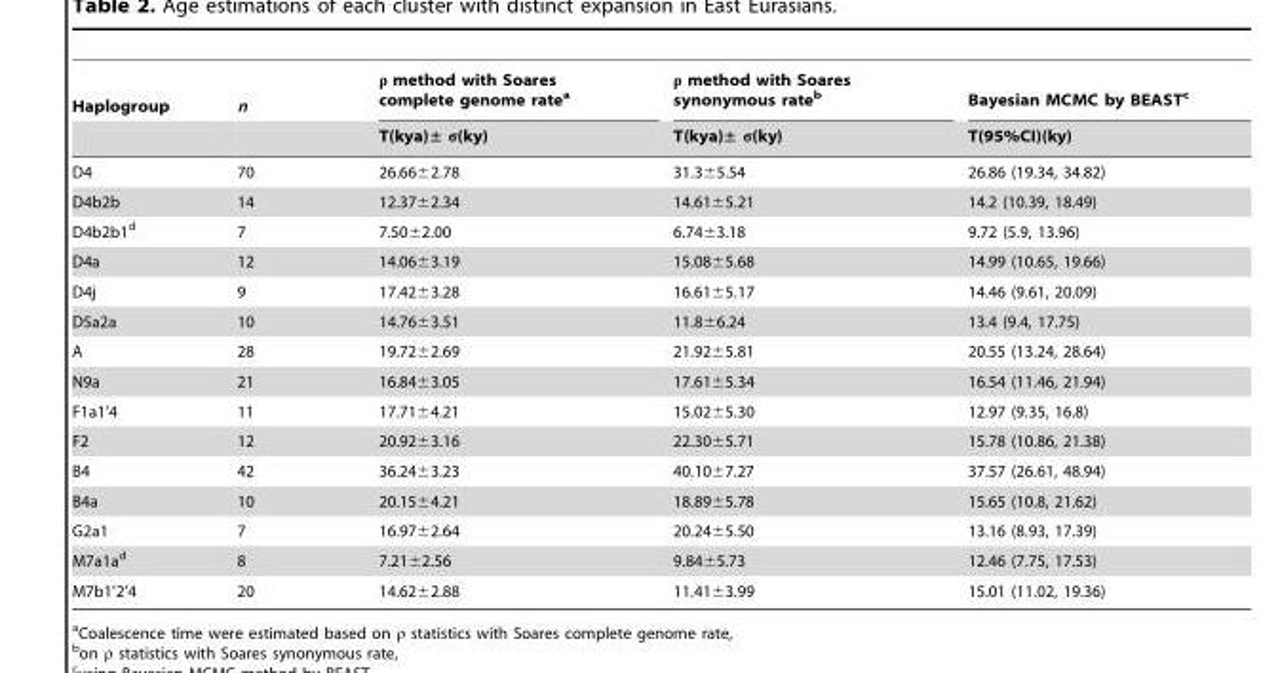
<table><thead><tr><td rowspan="2">Haplogroup</td><td rowspan="2">n</td><td rowspan="2">ρ method with Soares complete genome rate<sup>a</sup> T(kya)± σ(ky)</td><td rowspan="2">ρ method with Soares synonymous rate<sup>b</sup> T(kya)± σ(ky)</td><td rowspan="2">Bayesian MCMC by BEAST<sup>c</sup> T(95%CI)(ky)</td></tr><tr></tr></thead><tbody><tr><td>D4</td><td>70</td><td>26.66±2.78</td><td>31.3±5.54</td><td>26.86 (19.34, 34.82)</td></tr><tr><td>D4b2b</td><td>14</td><td>12.37±2.34</td><td>14.61±5.21</td><td>14.2 (10.39, 18.49)</td></tr><tr><td>D4b2b1<sup>d</sup></td><td>7</td><td>7.50±2.00</td><td>6.74±3.18</td><td>9.72 (5.9, 13.96)</td></tr><tr><td>D4a</td><td>12</td><td>14.06±3.19</td><td>15.08±5.68</td><td>14.99 (10.65, 19.66)</td></tr><tr><td>D4j</td><td>9</td><td>17.42±3.28</td><td>16.61±5.17</td><td>14.46 (9.61, 20.09)</td></tr><tr><td>D5a2a</td><td>10</td><td>14.76±3.51</td><td>11.8±6.24</td><td>13.4 (9.4, 17.75)</td></tr><tr><td>A</td><td>28</td><td>19.72±2.69</td><td>21.92±5.81</td><td>20.55 (13.24, 28.64)</td></tr><tr><td>N9a</td><td>21</td><td>16.84±3.05</td><td>17.61±5.34</td><td>16.54 (11.46, 21.94)</td></tr><tr><td>F1a1’4</td><td>11</td><td>17.71±4.21</td><td>15.02±5.30</td><td>12.97 (9.35, 16.8)</td></tr><tr><td>F2</td><td>12</td><td>20.92±3.16</td><td>22.30±5.71</td><td>15.78 (10.86, 21.38)</td></tr><tr><td>B4</td><td>42</td><td>36.24±3.23</td><td>40.10±7.27</td><td>37.57 (26.61, 48.94)</td></tr><tr><td>B4a</td><td>10</td><td>20.15±4.21</td><td>18.89±5.78</td><td>15.65 (10.8, 21.62)</td></tr><tr><td>G2a1</td><td>7</td><td>16.97±2.64</td><td>20.24±5.50</td><td>13.16 (8.93, 17.39)</td></tr><tr><td>M7a1a<sup>d</sup></td><td>8</td><td>7.21±2.56</td><td>9.84±5.73</td><td>12.46 (7.75, 17.53)</td></tr><tr><td>M7b1’2’4</td><td>20</td><td>14.62±2.88</td><td>11.41±3.99</td><td>15.01 (11.02, 19.36)</td></tr></tbody></table>